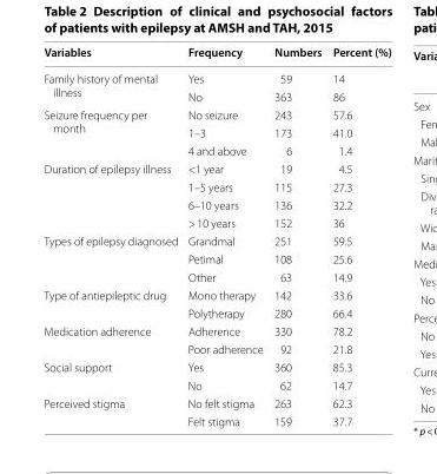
<table><thead><tr><td>Variables</td><td>Frequency</td><td>Numbers</td><td>Percent (%)</td></tr></thead><tbody><tr><td rowspan="2">Family history of mental illness</td><td>Yes</td><td>59</td><td>14</td></tr><tr><td>No</td><td>363</td><td>86</td></tr><tr><td rowspan="3">Seizure frequency per month</td><td>No seizure</td><td>243</td><td>57.6</td></tr><tr><td>1–3</td><td>173</td><td>41.0</td></tr><tr><td>4 and above</td><td>6</td><td>1.4</td></tr><tr><td rowspan="4">Duration of epilepsy illness</td><td>&lt;1 year</td><td>19</td><td>4.5</td></tr><tr><td>1–5 years</td><td>115</td><td>27.3</td></tr><tr><td>6–10 years</td><td>136</td><td>32.2</td></tr><tr><td>&gt; 10 years</td><td>152</td><td>36</td></tr><tr><td rowspan="3">Types of epilepsy diagnosed</td><td>Grandmal</td><td>251</td><td>59.5</td></tr><tr><td>Petimal</td><td>108</td><td>25.6</td></tr><tr><td>Other</td><td>63</td><td>14.9</td></tr><tr><td rowspan="2">Type of antiepileptic drug</td><td>Mono therapy</td><td>142</td><td>33.6</td></tr><tr><td>Polytherapy</td><td>280</td><td>66.4</td></tr><tr><td rowspan="2">Medication adherence</td><td>Adherence</td><td>330</td><td>78.2</td></tr><tr><td>Poor adherence</td><td>92</td><td>21.8</td></tr><tr><td rowspan="2">Social support</td><td>Yes</td><td>360</td><td>85.3</td></tr><tr><td>No</td><td>62</td><td>14.7</td></tr><tr><td rowspan="2">Perceived stigma</td><td>No felt stigma</td><td>263</td><td>62.3</td></tr><tr><td>Felt stigma</td><td>159</td><td>37.7</td></tr></tbody></table>